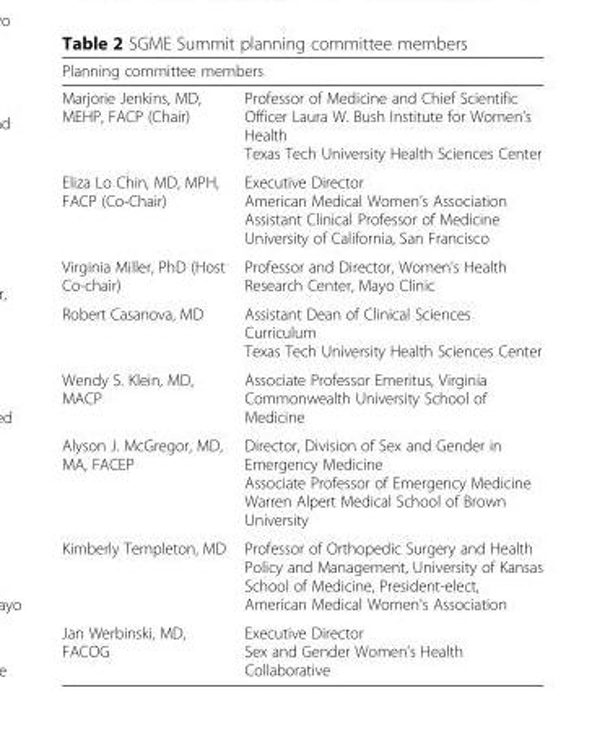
<table><thead><tr><td colspan="2">Planning committee members</td></tr><tr><td>Marjorie Jenkins, MD, MEHP, FACP (Chair)</td><td>Professor of Medicine and Chief Scientific Officer Laura W. Bush Institute for Women’s Health Texas Tech University Health Sciences Center</td></tr></thead><tbody><tr><td>Eliza Lo Chin, MD, MPH, FACP (Co-Chair)</td><td>Executive Director American Medical Women’s Association Assistant Clinical Professor of Medicine University of California, San Francisco</td></tr><tr><td>Virginia Miller, PhD (Host Co-chair)</td><td>Professor and Director, Women’s Health Research Center, Mayo Clinic</td></tr><tr><td>Robert Casanova, MD</td><td>Assistant Dean of Clinical Sciences Curriculum Texas Tech University Health Sciences Center</td></tr><tr><td>Wendy S. Klein, MD, MACP</td><td>Associate Professor Emeritus, Virginia Commonwealth University School of Medicine</td></tr><tr><td>Alyson J. McGregor, MD, MA, FACEP</td><td>Director, Division of Sex and Gender in Emergency Medicine Associate Professor of Emergency Medicine Warren Alpert Medical School of Brown University</td></tr><tr><td>Kimberly Templeton, MD</td><td>Professor of Orthopedic Surgery and Health Policy and Management, University of Kansas School of Medicine, President-elect, American Medical Women&#x27;s Association</td></tr><tr><td>Jan Werbinski, MD, FACOG</td><td>Executive Director Sex and Gender Women’s Health Collaborative</td></tr></tbody></table>